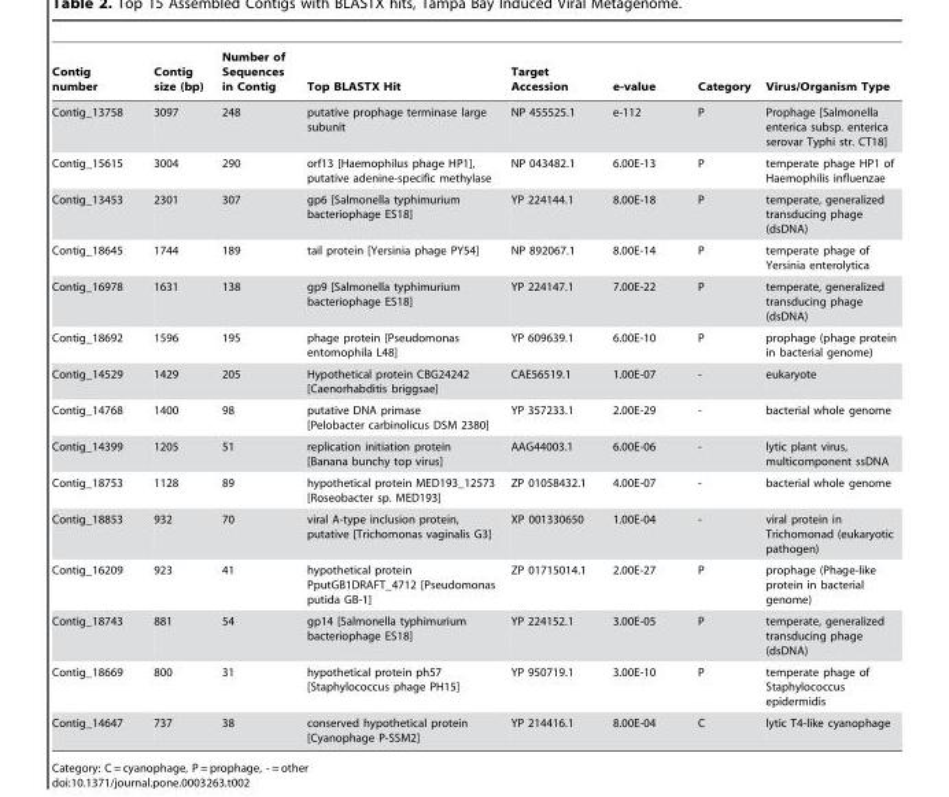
<table><thead><tr><td>Contig number</td><td>Contig size (bp)</td><td>Number of Sequences in Contig</td><td>Top BLASTX Hit</td><td>Target Accession</td><td>e-value</td><td>Category</td><td>Virus/Organism Type</td></tr></thead><tbody><tr><td>Contig_13758</td><td>3097</td><td>248</td><td>putative prophage terminase large subunit</td><td>NP 455525.1</td><td>e-112</td><td>P</td><td>Prophage [Salmonella enterica subsp. enterica serovar Typhi str. CT18]</td></tr><tr><td>Contig_15615</td><td>3004</td><td>290</td><td>orf13 [Haemophilus phage HP1], putative adenine-specific methylase</td><td>NP 043482.1</td><td>6.00E-13</td><td>P</td><td>temperate phage HP1 of Haemophilis influenzae</td></tr><tr><td>Contig_13453</td><td>2301</td><td>307</td><td>gp6 [Salmonella typhimurium bacteriophage ES18]</td><td>YP 224144.1</td><td>8.00E-18</td><td>P</td><td>temperate, generalized transducing phage (dsDNA)</td></tr><tr><td>Contig_18645</td><td>1744</td><td>189</td><td>tail protein [Yersinia phage PY54]</td><td>NP 892067.1</td><td>8.00E-14</td><td>P</td><td>temperate phage of Yersinia enterolytica</td></tr><tr><td>Contig_16978</td><td>1631</td><td>138</td><td>gp9 [Salmonella typhimurium bacteriophage ES18]</td><td>YP 224147.1</td><td>7.00E-22</td><td>P</td><td>temperate, generalized transducing phage (dsDNA)</td></tr><tr><td>Contig_18692</td><td>1596</td><td>195</td><td>phage protein [Pseudomonas entomophila L48]</td><td>YP 609639.1</td><td>6.00E-10</td><td>P</td><td>prophage (phage protein in bacterial genome)</td></tr><tr><td>Contig_14529</td><td>1429</td><td>205</td><td>Hypothetical protein CBG24242 [Caenorhabditis briggsae]</td><td>CAE56519.1</td><td>1.00E-07</td><td>-</td><td>eukaryote</td></tr><tr><td>Contig_14768</td><td>1400</td><td>98</td><td>putative DNA primase [Pelobacter carbinolicus DSM 2380]</td><td>YP 357233.1</td><td>2.00E-29</td><td>-</td><td>bacterial whole genome</td></tr><tr><td>Contig_14399</td><td>1205</td><td>51</td><td>replication initiation protein [Banana bunchy top virus]</td><td>AAG44003.1</td><td>6.00E-06</td><td>-</td><td>lytic plant virus, multicomponent ssDNA</td></tr><tr><td>Contig_18753</td><td>1128</td><td>89</td><td>hypothetical protein MED193_12573 [Roseobacter sp. MED193]</td><td>ZP 01058432.1</td><td>4.00E-07</td><td>-</td><td>bacterial whole genome</td></tr><tr><td>Contig_18853</td><td>932</td><td>70</td><td>viral A-type inclusion protein, putative [Trichomonas vaginalis G3]</td><td>XP 001330650</td><td>1.00E-04</td><td>-</td><td>viral protein in Trichomonad (eukaryotic pathogen)</td></tr><tr><td>Contig_16209</td><td>923</td><td>41</td><td>hypothetical protein PputGB1DRAFT_4712 [Pseudomonas putida GB-1]</td><td>ZP 01715014.1</td><td>2.00E-27</td><td>P</td><td>prophage (Phage-like protein in bacterial genome)</td></tr><tr><td>Contig_18743</td><td>881</td><td>54</td><td>gp14 [Salmonella typhimurium bacteriophage ES18]</td><td>YP 224152.1</td><td>3.00E-05</td><td>P</td><td>temperate, generalized transducing phage (dsDNA)</td></tr><tr><td>Contig_18669</td><td>800</td><td>31</td><td>hypothetical protein ph57 [Staphylococcus phage PH15]</td><td>YP 950719.1</td><td>3.00E-10</td><td>P</td><td>temperate phage of Staphylococcus epidermidis</td></tr><tr><td>Contig_14647</td><td>737</td><td>38</td><td>conserved hypothetical protein [Cyanophage P-SSM2]</td><td>YP 214416.1</td><td>8.00E-04</td><td>C</td><td>lytic T4-like cyanophage</td></tr></tbody></table>